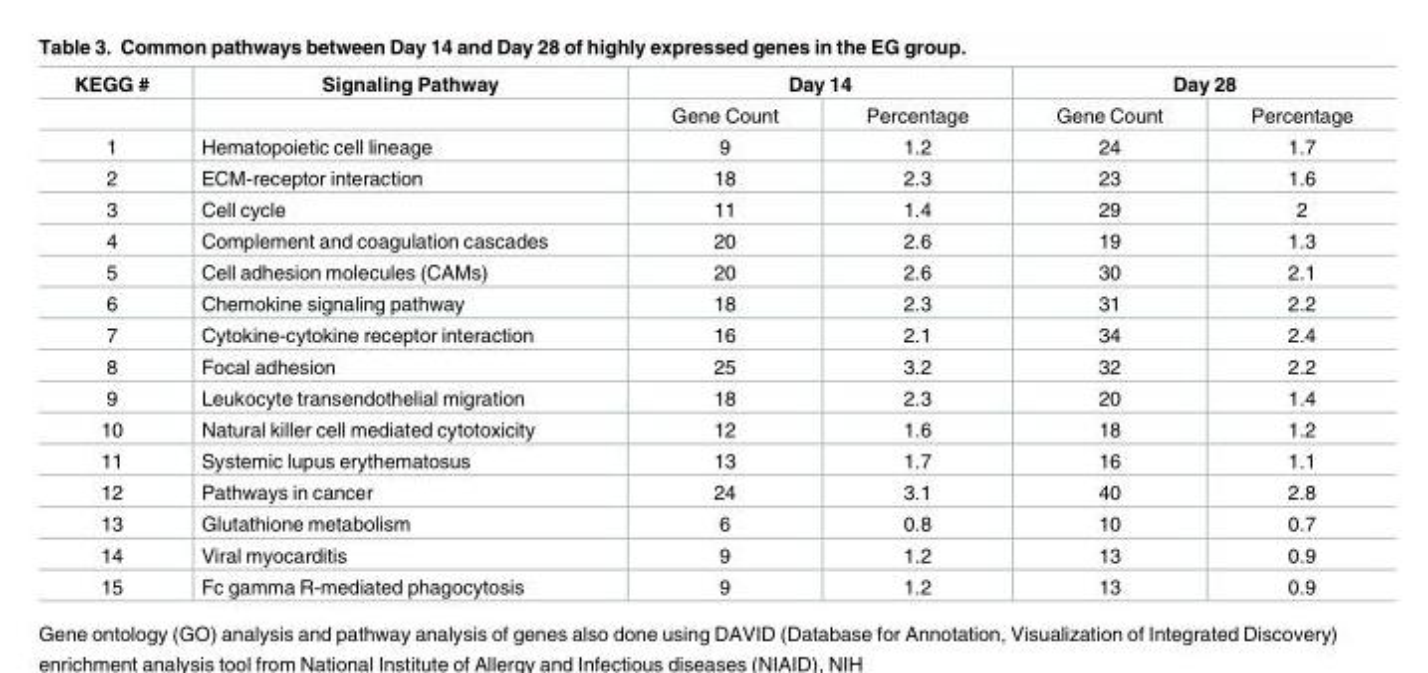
<table><thead><tr><td rowspan="2">KEGG #</td><td rowspan="2">Signaling Pathway</td><td colspan="2">Day 14</td><td colspan="2">Day 28</td></tr><tr><td>Gene Count</td><td>Percentage</td><td>Gene Count</td><td>Percentage</td></tr></thead><tbody><tr><td>1</td><td>Hematopoietic cell lineage</td><td>9</td><td>1.2</td><td>24</td><td>1.7</td></tr><tr><td>2</td><td>ECM-receptor interaction</td><td>18</td><td>2.3</td><td>23</td><td>1.6</td></tr><tr><td>3</td><td>Cell cycle</td><td>11</td><td>1.4</td><td>29</td><td>2</td></tr><tr><td>4</td><td>Complement and coagulation cascades</td><td>20</td><td>2.6</td><td>19</td><td>1.3</td></tr><tr><td>5</td><td>Cell adhesion molecules (CAMs)</td><td>20</td><td>2.6</td><td>30</td><td>2.1</td></tr><tr><td>6</td><td>Chemokine signaling pathway</td><td>18</td><td>2.3</td><td>31</td><td>2.2</td></tr><tr><td>7</td><td>Cytokine-cytokine receptor interaction</td><td>16</td><td>2.1</td><td>34</td><td>2.4</td></tr><tr><td>8</td><td>Focal adhesion</td><td>25</td><td>3.2</td><td>32</td><td>2.2</td></tr><tr><td>9</td><td>Leukocyte transendothelial migration</td><td>18</td><td>2.3</td><td>20</td><td>1.4</td></tr><tr><td>10</td><td>Natural killer cell mediated cytotoxicity</td><td>12</td><td>1.6</td><td>18</td><td>1.2</td></tr><tr><td>11</td><td>Systemic lupus erythematosus</td><td>13</td><td>1.7</td><td>16</td><td>1.1</td></tr><tr><td>12</td><td>Pathways in cancer</td><td>24</td><td>3.1</td><td>40</td><td>2.8</td></tr><tr><td>13</td><td>Glutathione metabolism</td><td>6</td><td>0.8</td><td>10</td><td>0.7</td></tr><tr><td>14</td><td>Viral myocarditis</td><td>9</td><td>1.2</td><td>13</td><td>0.9</td></tr><tr><td>15</td><td>Fc gamma R-mediated phagocytosis</td><td>9</td><td>1.2</td><td>13</td><td>0.9</td></tr></tbody></table>